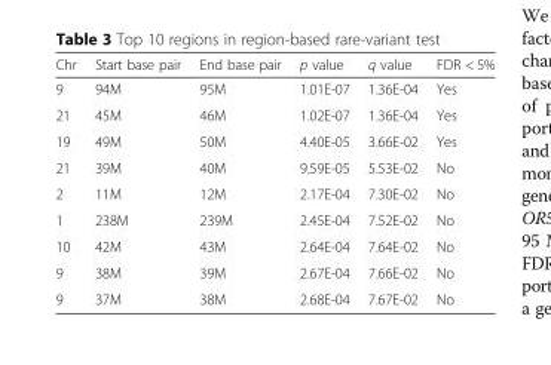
<table><thead><tr><td>Chr</td><td>Start base pair</td><td>End base pair</td><td>p value</td><td>q value</td><td>FDR &lt; 5%</td></tr></thead><tbody><tr><td>9</td><td>94M</td><td>95M</td><td>1.01E-07</td><td>1.36E-04</td><td>Yes</td></tr><tr><td>21</td><td>45M</td><td>46M</td><td>1.02E-07</td><td>1.36E-04</td><td>Yes</td></tr><tr><td>19</td><td>49M</td><td>50M</td><td>4.40E-05</td><td>3.66E-02</td><td>Yes</td></tr><tr><td>21</td><td>39M</td><td>40M</td><td>9.59E-05</td><td>5.53E-02</td><td>No</td></tr><tr><td>2</td><td>11M</td><td>12M</td><td>2.17E-04</td><td>7.30E-02</td><td>No</td></tr><tr><td>1</td><td>238M</td><td>239M</td><td>2.45E-04</td><td>7.52E-02</td><td>No</td></tr><tr><td>10</td><td>42M</td><td>43M</td><td>2.64E-04</td><td>7.64E-02</td><td>No</td></tr><tr><td>9</td><td>38M</td><td>39M</td><td>2.67E-04</td><td>7.66E-02</td><td>No</td></tr><tr><td>9</td><td>37M</td><td>38M</td><td>2.68E-04</td><td>7.67E-02</td><td>No</td></tr></tbody></table>